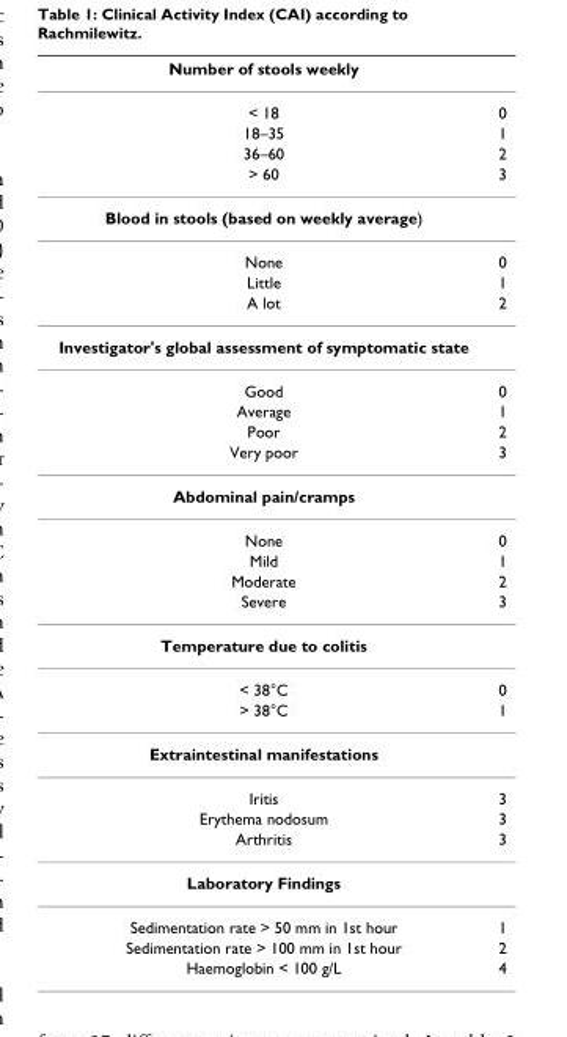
<table><thead><tr><td>Number of stools weekly</td><td></td></tr></thead><tbody><tr><td>&lt; 18</td><td>0</td></tr><tr><td>18–35</td><td>1</td></tr><tr><td>36–60</td><td>2</td></tr><tr><td>&gt; 60</td><td>3</td></tr><tr><td colspan="2">Blood in stools (based on weekly average)</td></tr><tr><td>None</td><td>0</td></tr><tr><td>Little</td><td>1</td></tr><tr><td>A lot</td><td>2</td></tr><tr><td colspan="2">Investigator&#x27;s global assessment of symptomatic state</td></tr><tr><td>Good</td><td>0</td></tr><tr><td>Average</td><td>1</td></tr><tr><td>Poor</td><td>2</td></tr><tr><td>Very poor</td><td>3</td></tr><tr><td colspan="2">Abdominal pain/cramps</td></tr><tr><td>None</td><td>0</td></tr><tr><td>Mild</td><td>1</td></tr><tr><td>Moderate</td><td>2</td></tr><tr><td>Severe</td><td>3</td></tr><tr><td colspan="2">Temperature due to colitis</td></tr><tr><td>&lt; 38°C</td><td>0</td></tr><tr><td>&gt; 38°C</td><td>1</td></tr><tr><td colspan="2">Extraintestinal manifestations</td></tr><tr><td>Iritis</td><td>3</td></tr><tr><td>Erythema nodosum</td><td>3</td></tr><tr><td>Arthritis</td><td>3</td></tr><tr><td colspan="2">Laboratory Findings</td></tr><tr><td>Sedimentation rate &gt; 50 mm in 1st hour</td><td>1</td></tr><tr><td>Sedimentation rate &gt; 100 mm in 1st hour</td><td>2</td></tr><tr><td>Haemoglobin &lt; 100 g/L</td><td>4</td></tr></tbody></table>